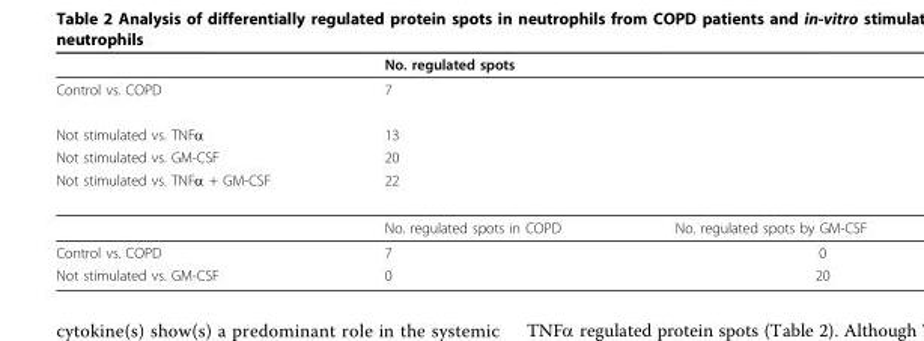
<table><thead><tr><td></td><td>No. regulated spots</td><td></td></tr></thead><tbody><tr><td>Control vs. COPD</td><td>7</td><td></td></tr><tr><td>Not stimulated vs. TNFα</td><td>13</td><td></td></tr><tr><td>Not stimulated vs. GM-CSF</td><td>20</td><td></td></tr><tr><td rowspan="2">Not stimulated vs. TNFα + GM-CSF</td><td>22</td><td></td></tr><tr><td>No. regulated spots in COPD</td><td>No. regulated spots by GM-CSF</td></tr><tr><td>Control vs. COPD</td><td>7</td><td>0</td></tr><tr><td>Not stimulated vs. GM-CSF</td><td>0</td><td>20</td></tr></tbody></table>